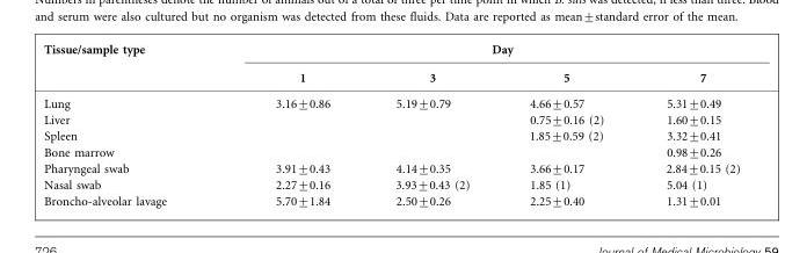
<table><thead><tr><td rowspan="2">Tissue/sample type</td><td colspan="4">Day</td></tr><tr><td>1</td><td>3</td><td>5</td><td>7</td></tr></thead><tbody><tr><td>Lung</td><td>3.16±0.86</td><td>5.19±0.79</td><td>4.66±0.57</td><td>5.31±0.49</td></tr><tr><td>Liver</td><td></td><td></td><td>0.75±0.16 (2)</td><td>1.60±0.15</td></tr><tr><td>Spleen</td><td></td><td></td><td>1.85±0.59 (2)</td><td>3.32±0.41</td></tr><tr><td>Bone marrow</td><td></td><td></td><td></td><td>0.98±0.26</td></tr><tr><td>Pharyngeal swab</td><td>3.91±0.43</td><td>4.14±0.35</td><td>3.66±0.17</td><td>2.84±0.15 (2)</td></tr><tr><td>Nasal swab</td><td>2.27±0.16</td><td>3.93±0.43 (2)</td><td>1.85 (1)</td><td>5.04 (1)</td></tr><tr><td>Broncho-alveolar lavage</td><td>5.70±1.84</td><td>2.50±0.26</td><td>2.25±0.40</td><td>1.31±0.01</td></tr></tbody></table>